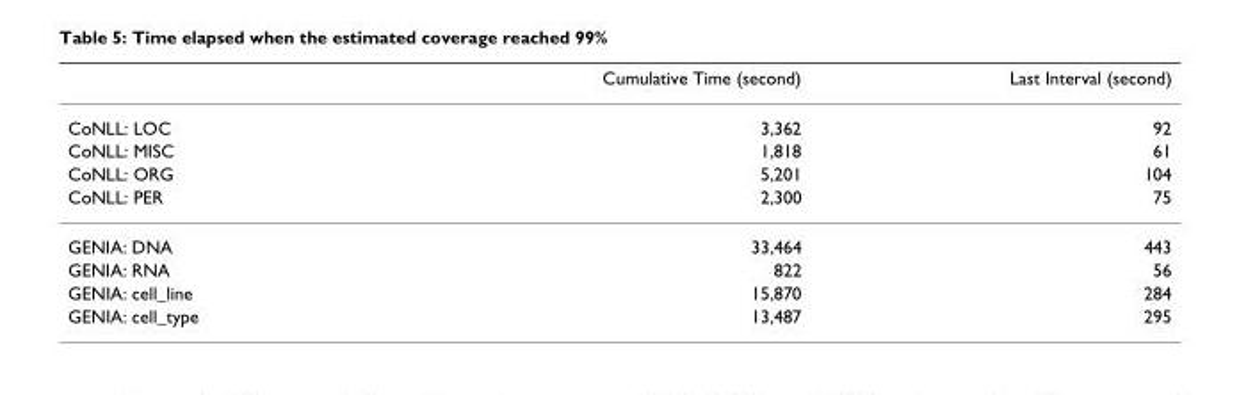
<table><thead><tr><td></td><td>Cumulative Time (second)</td><td>Last Interval (second)</td></tr></thead><tbody><tr><td>CoNLL: LOC</td><td>3,362</td><td>92</td></tr><tr><td>CoNLL: MISC</td><td>1,818</td><td>61</td></tr><tr><td>CoNLL: ORG</td><td>5,201</td><td>104</td></tr><tr><td>CoNLL: PER</td><td>2,300</td><td>75</td></tr><tr><td>GENIA: DNA</td><td>33,464</td><td>443</td></tr><tr><td>GENIA: RNA</td><td>822</td><td>56</td></tr><tr><td>GENIA: cell_line</td><td>15,870</td><td>284</td></tr><tr><td>GENIA: cell_type</td><td>13,487</td><td>295</td></tr></tbody></table>